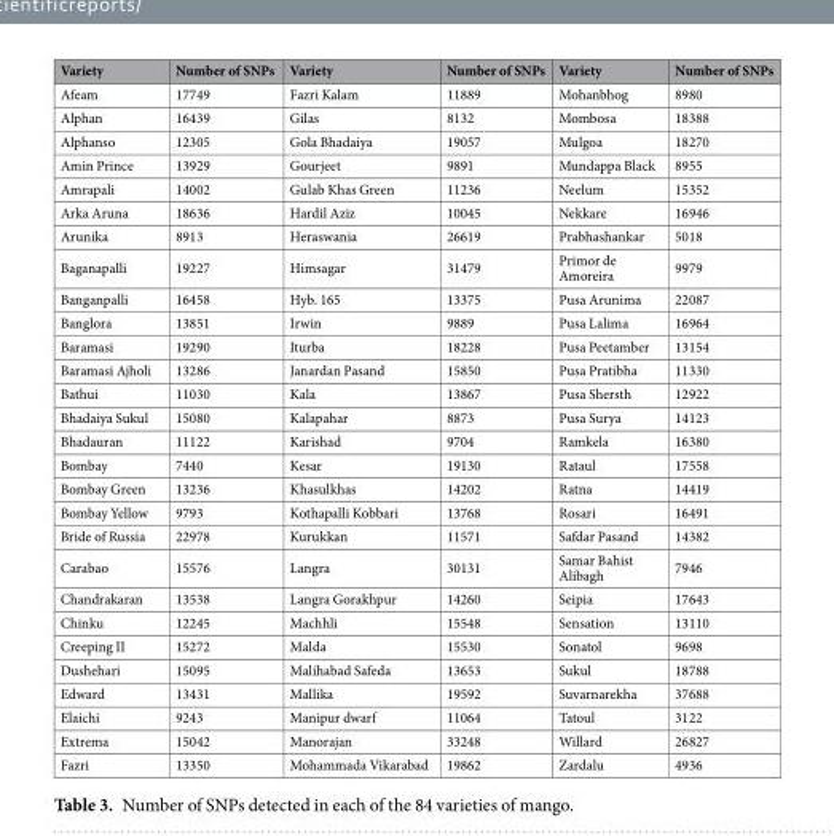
<table><thead><tr><td>Variety</td><td>Number of SNPs</td><td>Variety</td><td>Number of SNPs</td><td>Variety</td><td>Number of SNPs</td></tr></thead><tbody><tr><td>Afeam</td><td>17749</td><td>Fazri Kalam</td><td>11889</td><td>Mohanbhog</td><td>8980</td></tr><tr><td>Alphan</td><td>16439</td><td>Gilas</td><td>8132</td><td>Mombosa</td><td>18388</td></tr><tr><td>Alphanso</td><td>12305</td><td>Gola Bhadaiya</td><td>19057</td><td>Mulgoa</td><td>18270</td></tr><tr><td>Amin Prince</td><td>13929</td><td>Gourjeet</td><td>9891</td><td>Mundappa Black</td><td>8955</td></tr><tr><td>Amrapali</td><td>14002</td><td>Gulab Khas Green</td><td>11236</td><td>Neelum</td><td>15352</td></tr><tr><td>Arka Aruna</td><td>18636</td><td>Hardil Aziz</td><td>10045</td><td>Nekkare</td><td>16946</td></tr><tr><td>Arunika</td><td>8913</td><td>Heraswania</td><td>26619</td><td>Prabhashankar</td><td>5018</td></tr><tr><td>Baganapalli</td><td>19227</td><td>Himsagar</td><td>31479</td><td>Primor de Amoreira</td><td>9979</td></tr><tr><td>Banganpalli</td><td>16458</td><td>Hyb. 165</td><td>13375</td><td>Pusa Arunima</td><td>22087</td></tr><tr><td>Banglora</td><td>13851</td><td>Irwin</td><td>9889</td><td>Pusa Lalima</td><td>16964</td></tr><tr><td>Baramasi</td><td>19290</td><td>Iturba</td><td>18228</td><td>Pusa Peetamber</td><td>13154</td></tr><tr><td>Baramasi Ajholi</td><td>13286</td><td>Janardan Pasand</td><td>15850</td><td>Pusa Pratibha</td><td>11330</td></tr><tr><td>Bathui</td><td>11030</td><td>Kala</td><td>13867</td><td>Pusa Shersth</td><td>12922</td></tr><tr><td>Bhadaiya Sukul</td><td>15080</td><td>Kalapahar</td><td>8873</td><td>Pusa Surya</td><td>14123</td></tr><tr><td>Bhadauran</td><td>11122</td><td>Karishad</td><td>9704</td><td>Ramkela</td><td>16380</td></tr><tr><td>Bombay</td><td>7440</td><td>Kesar</td><td>19130</td><td>Rataul</td><td>17558</td></tr><tr><td>Bombay Green</td><td>13236</td><td>Khasulkhas</td><td>14202</td><td>Ratna</td><td>14419</td></tr><tr><td>Bombay Yellow</td><td>9793</td><td>Kothapalli Kobbari</td><td>13768</td><td>Rosari</td><td>16491</td></tr><tr><td>Bride of Russia</td><td>22978</td><td>Kurukkan</td><td>11571</td><td>Safdar Pasand</td><td>14382</td></tr><tr><td>Carabao</td><td>15576</td><td>Langra</td><td>30131</td><td>Samar Bahist Alibagh</td><td>7946</td></tr><tr><td>Chandrakaran</td><td>13538</td><td>Langra Gorakhpur</td><td>14260</td><td>Seipia</td><td>17643</td></tr><tr><td>Chinku</td><td>12245</td><td>Machhli</td><td>15548</td><td>Sensation</td><td>13110</td></tr><tr><td>Creeping II</td><td>15272</td><td>Malda</td><td>15530</td><td>Sonatol</td><td>9698</td></tr><tr><td>Dushehari</td><td>15095</td><td>Malihabad Safeda</td><td>13653</td><td>Sukul</td><td>18788</td></tr><tr><td>Edward</td><td>13431</td><td>Mallika</td><td>19592</td><td>Suvarnarekha</td><td>37688</td></tr><tr><td>Elaichi</td><td>9243</td><td>Manipur dwarf</td><td>11064</td><td>Tatoul</td><td>3122</td></tr><tr><td>Extrema</td><td>15042</td><td>Manorajan</td><td>33248</td><td>Willard</td><td>26827</td></tr><tr><td>Fazri</td><td>13350</td><td>Mohammada Vikarabad</td><td>19862</td><td>Zardalu</td><td>4936</td></tr></tbody></table>